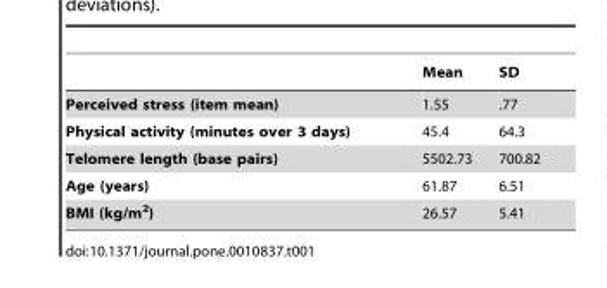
<table><thead><tr><td></td><td>Mean</td><td>SD</td></tr></thead><tbody><tr><td>Perceived stress (item mean)</td><td>1.55</td><td>.77</td></tr><tr><td>Physical activity (minutes over 3 days)</td><td>45.4</td><td>64.3</td></tr><tr><td>Telomere length (base pairs)</td><td>5502.73</td><td>700.82</td></tr><tr><td>Age (years)</td><td>61.87</td><td>6.51</td></tr><tr><td>BMI (kg/m<sup>2</sup>)</td><td>26.57</td><td>5.41</td></tr></tbody></table>